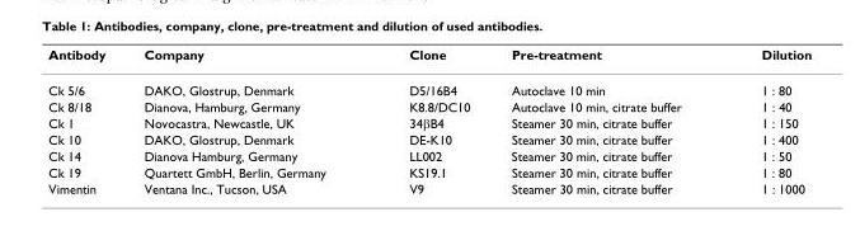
<table><thead><tr><td>Antibody</td><td>Company</td><td>Clone</td><td>Pre-treatment</td><td>Dilution</td></tr></thead><tbody><tr><td>Ck 5/6</td><td>DAKO, Glostrup, Denmark</td><td>D5/16B4</td><td>Autoclave 10 min</td><td>1 : 80</td></tr><tr><td>Ck 8/18</td><td>Dianova, Hamburg, Germany</td><td>K8.8/DC10</td><td>Autoclave 10 min, citrate buffer</td><td>1 : 40</td></tr><tr><td>Ck 1</td><td>Novocastra, Newcastle, UK</td><td>34βB4</td><td>Steamer 30 min, citrate buffer</td><td>1 : 150</td></tr><tr><td>Ck 10</td><td>DAKO, Glostrup, Denmark</td><td>DE-K10</td><td>Steamer 30 min, citrate buffer</td><td>1 : 400</td></tr><tr><td>Ck 14</td><td>Dianova Hamburg, Germany</td><td>LL002</td><td>Steamer 30 min, citrate buffer</td><td>1 : 50</td></tr><tr><td>Ck 19</td><td>Quartett GmbH, Berlin, Germany</td><td>KS19.1</td><td>Steamer 30 min, citrate buffer</td><td>1 : 80</td></tr><tr><td>Vimentin</td><td>Ventana Inc., Tucson, USA</td><td>V9</td><td>Steamer 30 min, citrate buffer</td><td>1 : 1000</td></tr></tbody></table>